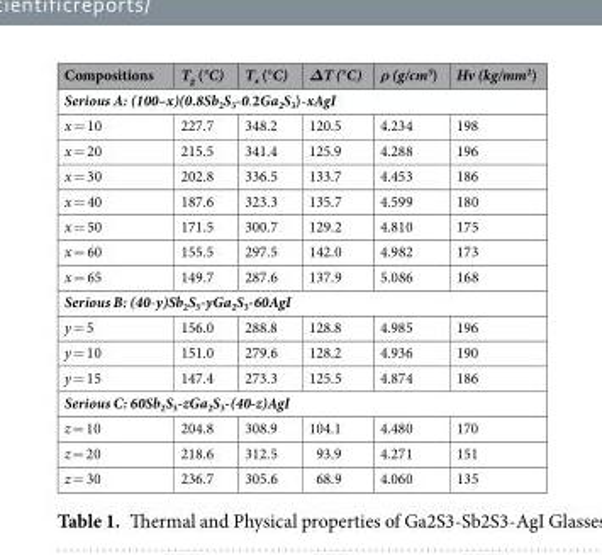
<table><thead><tr><td>Compositions</td><td>T<sub>g</sub> (°C)</td><td>T<sub>x</sub> (°C)</td><td>ΔT (°C)</td><td>ρ (g/cm<sup>3</sup>)</td><td>Hv (kg/mm<sup>2</sup>)</td></tr></thead><tbody><tr><td colspan="6">Serious A: (100–x)(0.8Sb2S3-0.2Ga2S3)-xAgI</td></tr><tr><td>x = 10</td><td>227.7</td><td>348.2</td><td>120.5</td><td>4.234</td><td>198</td></tr><tr><td>x = 20</td><td>215.5</td><td>341.4</td><td>125.9</td><td>4.288</td><td>196</td></tr><tr><td>x = 30</td><td>202.8</td><td>336.5</td><td>133.7</td><td>4.453</td><td>186</td></tr><tr><td>x = 40</td><td>187.6</td><td>323.3</td><td>135.7</td><td>4.599</td><td>180</td></tr><tr><td>x = 50</td><td>171.5</td><td>300.7</td><td>129.2</td><td>4.810</td><td>175</td></tr><tr><td>x = 60</td><td>155.5</td><td>297.5</td><td>142.0</td><td>4.982</td><td>173</td></tr><tr><td>x = 65</td><td>149.7</td><td>287.6</td><td>137.9</td><td>5.086</td><td>168</td></tr><tr><td colspan="6">Serious B: (40-y)Sb2S3-yGa2S3-60AgI</td></tr><tr><td>y = 5</td><td>156.0</td><td>288.8</td><td>128.8</td><td>4.985</td><td>196</td></tr><tr><td>y = 10</td><td>151.0</td><td>279.6</td><td>128.2</td><td>4.936</td><td>190</td></tr><tr><td>y = 15</td><td>147.4</td><td>273.3</td><td>125.5</td><td>4.874</td><td>186</td></tr><tr><td colspan="6">Serious C: 60Sb2S3-zGa2S3-(40-z)AgI</td></tr><tr><td>z = 10</td><td>204.8</td><td>308.9</td><td>104.1</td><td>4.480</td><td>170</td></tr><tr><td>z = 20</td><td>218.6</td><td>312.5</td><td>93.9</td><td>4.271</td><td>151</td></tr><tr><td>z = 30</td><td>236.7</td><td>305.6</td><td>68.9</td><td>4.060</td><td>135</td></tr></tbody></table>